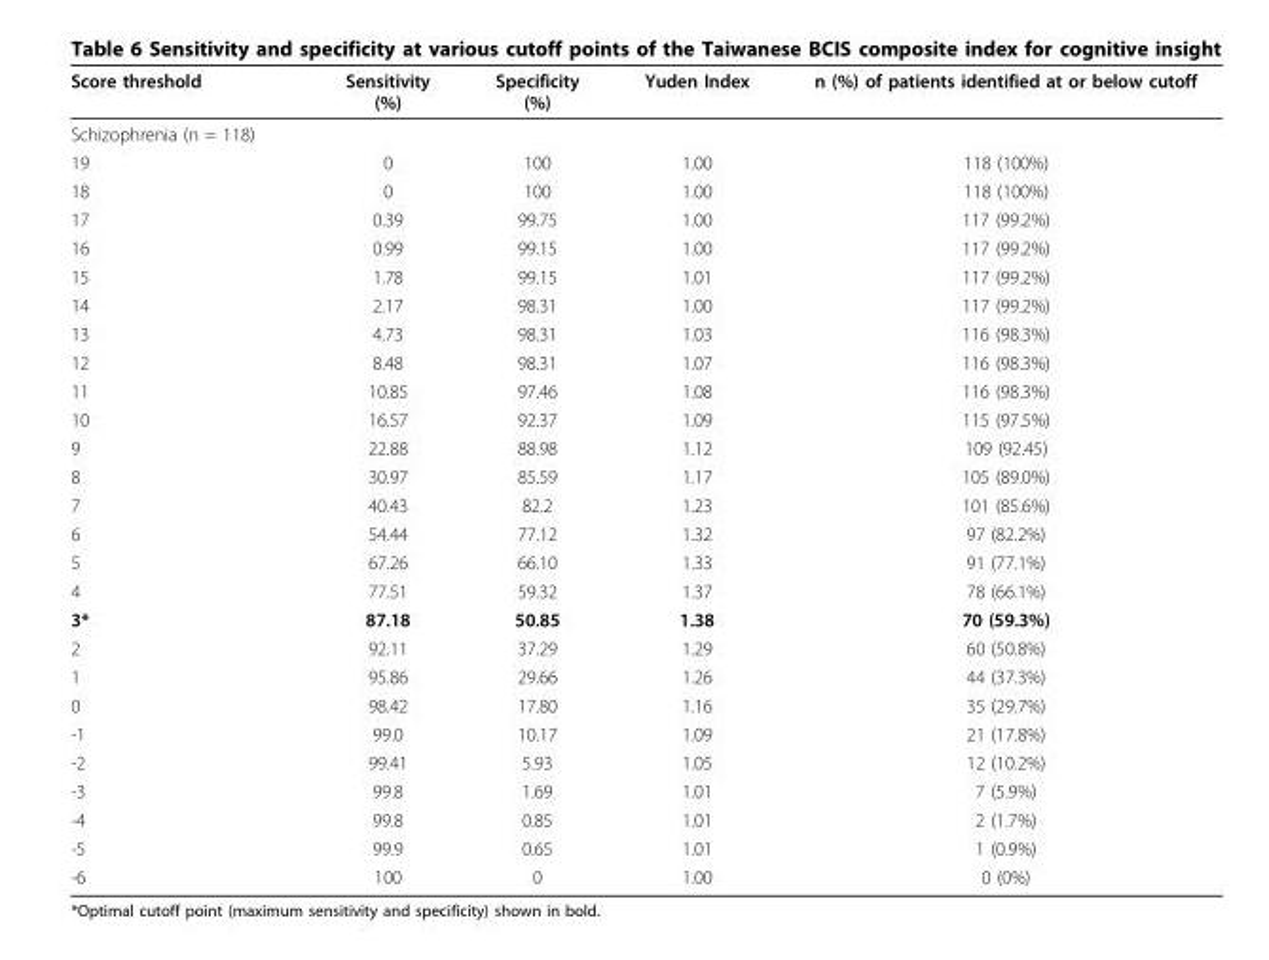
<table><thead><tr><td>Score threshold</td><td>Sensitivity (%)</td><td>Specificity (%)</td><td>Yuden Index</td><td>n (%) of patients identified at or below cutoff</td></tr></thead><tbody><tr><td colspan="5">Schizophrenia (n = 118)</td></tr><tr><td>19</td><td>0</td><td>100</td><td>1.00</td><td>118 (100%)</td></tr><tr><td>18</td><td>0</td><td>100</td><td>1.00</td><td>118 (100%)</td></tr><tr><td>17</td><td>0.39</td><td>99.75</td><td>1.00</td><td>117 (99.2%)</td></tr><tr><td>16</td><td>0.99</td><td>99.15</td><td>1.00</td><td>117 (99.2%)</td></tr><tr><td>15</td><td>1.78</td><td>99.15</td><td>1.01</td><td>117 (99.2%)</td></tr><tr><td>14</td><td>2.17</td><td>98.31</td><td>1.00</td><td>117 (99.2%)</td></tr><tr><td>13</td><td>4.73</td><td>98.31</td><td>1.03</td><td>116 (98.3%)</td></tr><tr><td>12</td><td>8.48</td><td>98.31</td><td>1.07</td><td>116 (98.3%)</td></tr><tr><td>11</td><td>10.85</td><td>97.46</td><td>1.08</td><td>116 (98.3%)</td></tr><tr><td>10</td><td>16.57</td><td>92.37</td><td>1.09</td><td>115 (97.5%)</td></tr><tr><td>9</td><td>22.88</td><td>88.98</td><td>1.12</td><td>109 (92.45)</td></tr><tr><td>8</td><td>30.97</td><td>85.59</td><td>1.17</td><td>105 (89.0%)</td></tr><tr><td>7</td><td>40.43</td><td>82.2</td><td>1.23</td><td>101 (85.6%)</td></tr><tr><td>6</td><td>54.44</td><td>77.12</td><td>1.32</td><td>97 (82.2%)</td></tr><tr><td>5</td><td>67.26</td><td>66.10</td><td>1.33</td><td>91 (77.1%)</td></tr><tr><td>4</td><td>77.51</td><td>59.32</td><td>1.37</td><td>78 (66.1%)</td></tr><tr><td>3*</td><td>87.18</td><td>50.85</td><td>1.38</td><td>70 (59.3%)</td></tr><tr><td>2</td><td>92.11</td><td>37.29</td><td>1.29</td><td>60 (50.8%)</td></tr><tr><td>1</td><td>95.86</td><td>29.66</td><td>1.26</td><td>44 (37.3%)</td></tr><tr><td>0</td><td>98.42</td><td>17.80</td><td>1.16</td><td>35 (29.7%)</td></tr><tr><td>-1</td><td>99.0</td><td>10.17</td><td>1.09</td><td>21 (17.8%)</td></tr><tr><td>-2</td><td>99.41</td><td>5.93</td><td>1.05</td><td>12 (10.2%)</td></tr><tr><td>-3</td><td>99.8</td><td>1.69</td><td>1.01</td><td>7 (5.9%)</td></tr><tr><td>-4</td><td>99.8</td><td>0.85</td><td>1.01</td><td>2 (1.7%)</td></tr><tr><td>-5</td><td>99.9</td><td>0.65</td><td>1.01</td><td>1 (0.9%)</td></tr><tr><td>-6</td><td>100</td><td>0</td><td>1.00</td><td>0 (0%)</td></tr></tbody></table>